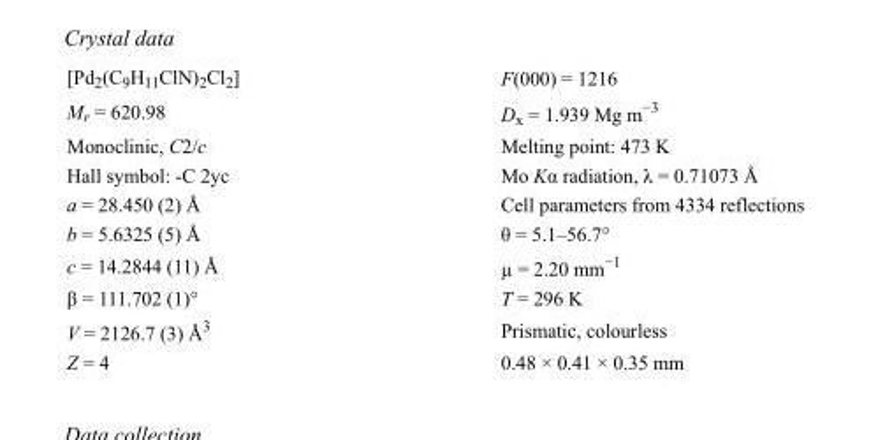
<table><tbody><tr><td>[Pd<sub>2</sub>(C<sub>9</sub>H<sub>11</sub>ClN)<sub>2</sub>Cl<sub>2</sub>]</td><td>F(000) = 1216</td></tr><tr><td>M<sub>r</sub> = 620.98</td><td>D<sub>x</sub> = 1.939 Mg m<sup>−3</sup></td></tr><tr><td>Monoclinic, C2/c</td><td>Melting point: 473 K</td></tr><tr><td>Hall symbol: -C 2yc</td><td>Mo Kα radiation, λ = 0.71073 Å</td></tr><tr><td>a = 28.450 (2) Å</td><td>Cell parameters from 4334 reflections</td></tr><tr><td>b = 5.6325 (5) Å</td><td>θ = 5.1–56.7°</td></tr><tr><td>c = 14.2844 (11) Å</td><td>µ = 2.20 mm<sup>−1</sup></td></tr><tr><td>β = 111.702 (1)°</td><td>T = 296 K</td></tr><tr><td>V = 2126.7 (3) Å<sup>3</sup></td><td>Prismatic, colourless</td></tr><tr><td>Z = 4</td><td>0.48 × 0.41 × 0.35 mm</td></tr></tbody></table>